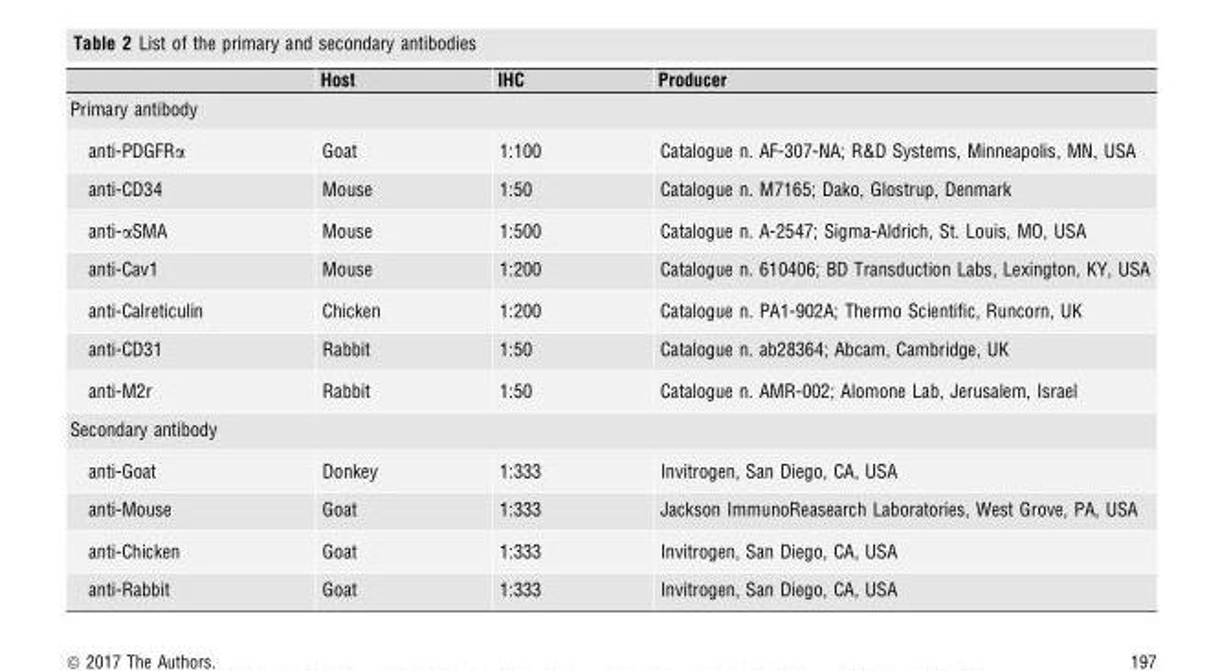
<table><thead><tr><td></td><td>Host</td><td>IHC</td><td>Producer</td></tr></thead><tbody><tr><td colspan="4">Primary antibody</td></tr><tr><td>anti-PDGFRα</td><td>Goat</td><td>1:100</td><td>Catalogue n. AF-307-NA; R&amp;D Systems, Minneapolis, MN, USA</td></tr><tr><td>anti-CD34</td><td>Mouse</td><td>1:50</td><td>Catalogue n. M7165; Dako, Glostrup, Denmark</td></tr><tr><td>anti-αSMA</td><td>Mouse</td><td>1:500</td><td>Catalogue n. A-2547; Sigma-Aldrich, St. Louis, MO, USA</td></tr><tr><td>anti-Cav1</td><td>Mouse</td><td>1:200</td><td>Catalogue n. 610406; BD Transduction Labs, Lexington, KY, USA</td></tr><tr><td>anti-Calreticulin</td><td>Chicken</td><td>1:200</td><td>Catalogue n. PA1-902A; Thermo Scientific, Runcorn, UK</td></tr><tr><td>anti-CD31</td><td>Rabbit</td><td>1:50</td><td>Catalogue n. ab28364; Abcam, Cambridge, UK</td></tr><tr><td>anti-M2r</td><td>Rabbit</td><td>1:50</td><td>Catalogue n. AMR-002; Alomone Lab, Jerusalem, Israel</td></tr><tr><td colspan="4">Secondary antibody</td></tr><tr><td>anti-Goat</td><td>Donkey</td><td>1:333</td><td>Invitrogen, San Diego, CA, USA</td></tr><tr><td>anti-Mouse</td><td>Goat</td><td>1:333</td><td>Jackson ImmunoReasearch Laboratories, West Grove, PA, USA</td></tr><tr><td>anti-Chicken</td><td>Goat</td><td>1:333</td><td>Invitrogen, San Diego, CA, USA</td></tr><tr><td>anti-Rabbit</td><td>Goat</td><td>1:333</td><td>Invitrogen, San Diego, CA, USA</td></tr></tbody></table>